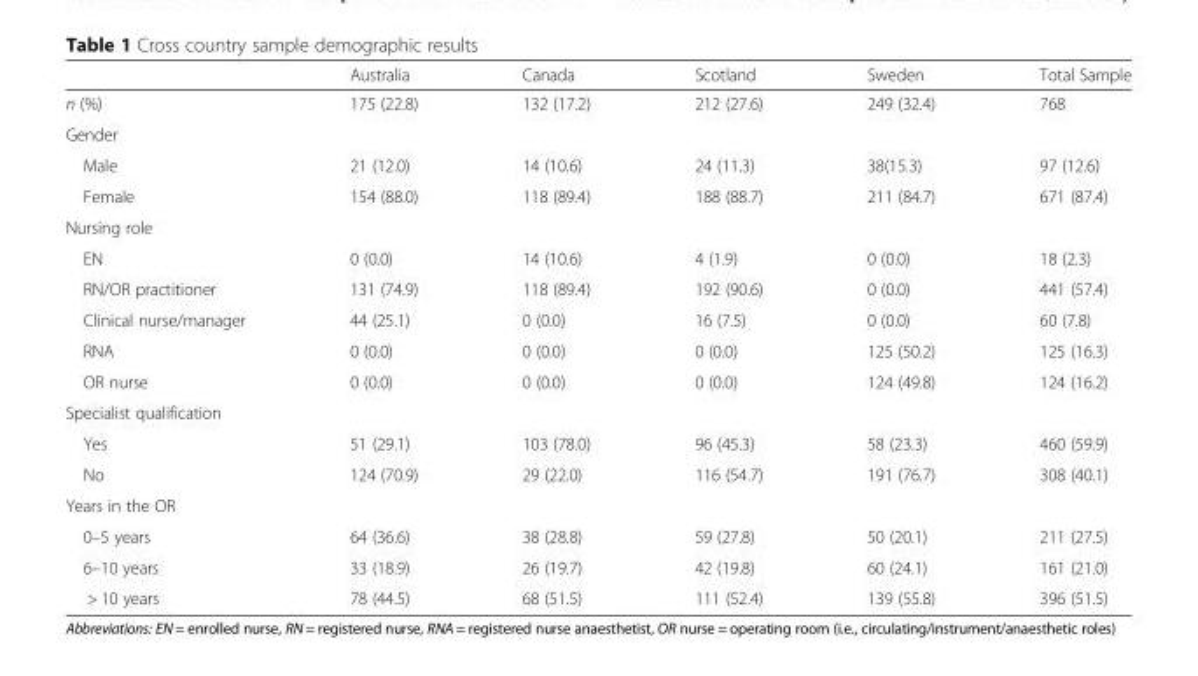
<table><thead><tr><td></td><td>Australia</td><td>Canada</td><td>Scotland</td><td>Sweden</td><td>Total Sample</td></tr></thead><tbody><tr><td>n (%)</td><td>175 (22.8)</td><td>132 (17.2)</td><td>212 (27.6)</td><td>249 (32.4)</td><td>768</td></tr><tr><td colspan="6">Gender</td></tr><tr><td>Male</td><td>21 (12.0)</td><td>14 (10.6)</td><td>24 (11.3)</td><td>38(15.3)</td><td>97 (12.6)</td></tr><tr><td>Female</td><td>154 (88.0)</td><td>118 (89.4)</td><td>188 (88.7)</td><td>211 (84.7)</td><td>671 (87.4)</td></tr><tr><td colspan="6">Nursing role</td></tr><tr><td>EN</td><td>0 (0.0)</td><td>14 (10.6)</td><td>4 (1.9)</td><td>0 (0.0)</td><td>18 (2.3)</td></tr><tr><td>RN/OR practitioner</td><td>131 (74.9)</td><td>118 (89.4)</td><td>192 (90.6)</td><td>0 (0.0)</td><td>441 (57.4)</td></tr><tr><td>Clinical nurse/manager</td><td>44 (25.1)</td><td>0 (0.0)</td><td>16 (7.5)</td><td>0 (0.0)</td><td>60 (7.8)</td></tr><tr><td>RNA</td><td>0 (0.0)</td><td>0 (0.0)</td><td>0 (0.0)</td><td>125 (50.2)</td><td>125 (16.3)</td></tr><tr><td>OR nurse</td><td>0 (0.0)</td><td>0 (0.0)</td><td>0 (0.0)</td><td>124 (49.8)</td><td>124 (16.2)</td></tr><tr><td colspan="6">Specialist qualification</td></tr><tr><td>Yes</td><td>51 (29.1)</td><td>103 (78.0)</td><td>96 (45.3)</td><td>58 (23.3)</td><td>460 (59.9)</td></tr><tr><td>No</td><td>124 (70.9)</td><td>29 (22.0)</td><td>116 (54.7)</td><td>191 (76.7)</td><td>308 (40.1)</td></tr><tr><td colspan="6">Years in the OR</td></tr><tr><td>0–5 years</td><td>64 (36.6)</td><td>38 (28.8)</td><td>59 (27.8)</td><td>50 (20.1)</td><td>211 (27.5)</td></tr><tr><td>6–10 years</td><td>33 (18.9)</td><td>26 (19.7)</td><td>42 (19.8)</td><td>60 (24.1)</td><td>161 (21.0)</td></tr><tr><td>&gt; 10 years</td><td>78 (44.5)</td><td>68 (51.5)</td><td>111 (52.4)</td><td>139 (55.8)</td><td>396 (51.5)</td></tr></tbody></table>